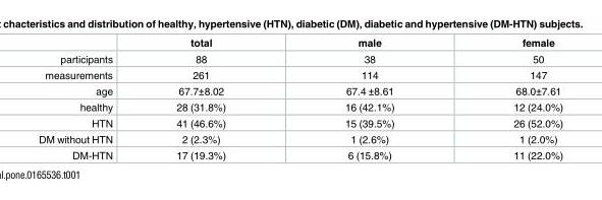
<table><thead><tr><td></td><td>total</td><td>male</td><td>female</td></tr></thead><tbody><tr><td>participants</td><td>88</td><td>38</td><td>50</td></tr><tr><td>measurements</td><td>261</td><td>114</td><td>147</td></tr><tr><td>age</td><td>67.7±8.02</td><td>67.4 ±8.61</td><td>68.0±7.61</td></tr><tr><td>healthy</td><td>28 (31.8%)</td><td>16 (42.1%)</td><td>12 (24.0%)</td></tr><tr><td>HTN</td><td>41 (46.6%)</td><td>15 (39.5%)</td><td>26 (52.0%)</td></tr><tr><td>DM without HTN</td><td>2 (2.3%)</td><td>1 (2.6%)</td><td>1 (2.0%)</td></tr><tr><td>DM-HTN</td><td>17 (19.3%)</td><td>6 (15.8%)</td><td>11 (22.0%)</td></tr></tbody></table>